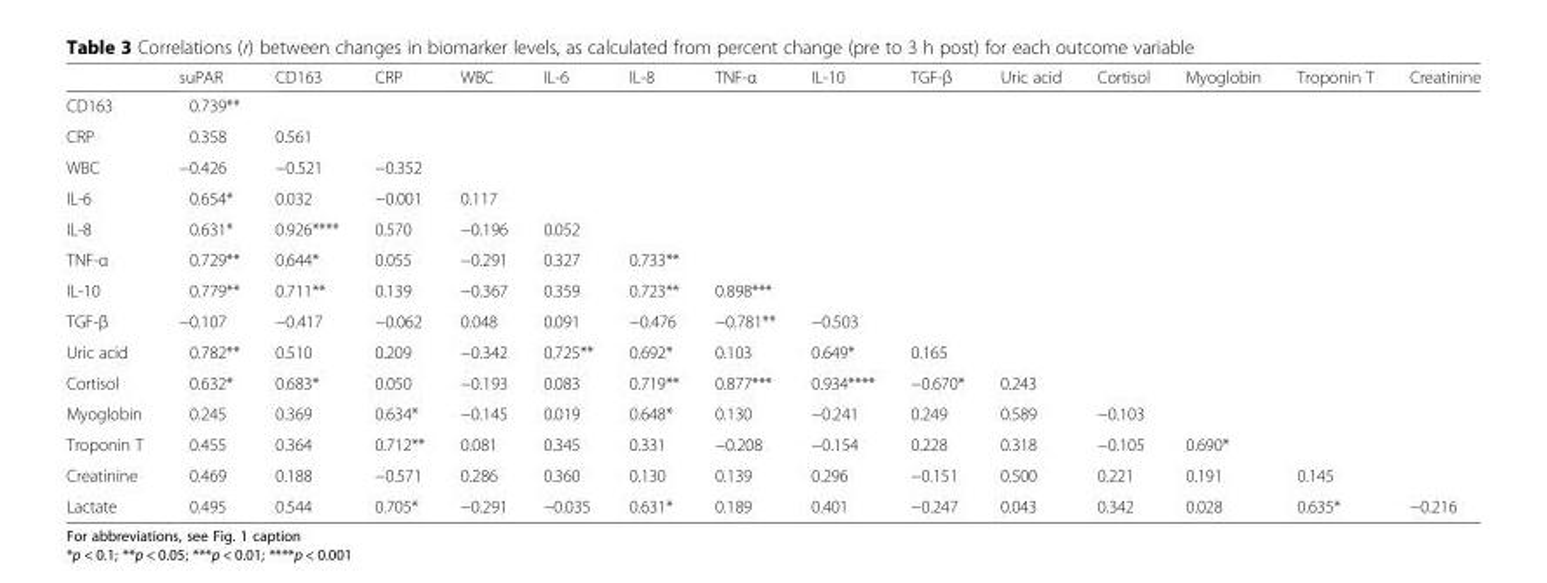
<table><thead><tr><td></td><td>suPAR</td><td>CD163</td><td>CRP</td><td>WBC</td><td>IL-6</td><td>IL-8</td><td>TNF-α</td><td>IL-10</td><td>TGF-β</td><td>Uric acid</td><td>Cortisol</td><td>Myoglobin</td><td>Troponin T</td><td>Creatinine</td></tr></thead><tbody><tr><td>CD163</td><td>0.739**</td><td></td><td></td><td></td><td></td><td></td><td></td><td></td><td></td><td></td><td></td><td></td><td></td><td></td></tr><tr><td>CRP</td><td>0.358</td><td>0.561</td><td></td><td></td><td></td><td></td><td></td><td></td><td></td><td></td><td></td><td></td><td></td><td></td></tr><tr><td>WBC</td><td>−0.426</td><td>−0.521</td><td>−0.352</td><td></td><td></td><td></td><td></td><td></td><td></td><td></td><td></td><td></td><td></td><td></td></tr><tr><td>IL-6</td><td>0.654*</td><td>0.032</td><td>−0.001</td><td>0.117</td><td></td><td></td><td></td><td></td><td></td><td></td><td></td><td></td><td></td><td></td></tr><tr><td>IL-8</td><td>0.631*</td><td>0.926****</td><td>0.570</td><td>−0.196</td><td>0.052</td><td></td><td></td><td></td><td></td><td></td><td></td><td></td><td></td><td></td></tr><tr><td>TNF-α</td><td>0.729**</td><td>0.644*</td><td>0.055</td><td>−0.291</td><td>0.327</td><td>0.733**</td><td></td><td></td><td></td><td></td><td></td><td></td><td></td><td></td></tr><tr><td>IL-10</td><td>0.779**</td><td>0.711**</td><td>0.139</td><td>−0.367</td><td>0.359</td><td>0.723**</td><td>0.898***</td><td></td><td></td><td></td><td></td><td></td><td></td><td></td></tr><tr><td>TGF-β</td><td>−0.107</td><td>−0.417</td><td>−0.062</td><td>0.048</td><td>0.091</td><td>−0.476</td><td>−0.781**</td><td>−0.503</td><td></td><td></td><td></td><td></td><td></td><td></td></tr><tr><td>Uric acid</td><td>0.782**</td><td>0.510</td><td>0.209</td><td>−0.342</td><td>0.725**</td><td>0.692*</td><td>0.103</td><td>0.649*</td><td>0.165</td><td></td><td></td><td></td><td></td><td></td></tr><tr><td>Cortisol</td><td>0.632*</td><td>0.683*</td><td>0.050</td><td>−0.193</td><td>0.083</td><td>0.719**</td><td>0.877***</td><td>0.934****</td><td>−0.670*</td><td>0.243</td><td></td><td></td><td></td><td></td></tr><tr><td>Myoglobin</td><td>0.245</td><td>0.369</td><td>0.634*</td><td>−0.145</td><td>0.019</td><td>0.648*</td><td>0.130</td><td>−0.241</td><td>0.249</td><td>0.589</td><td>−0.103</td><td></td><td></td><td></td></tr><tr><td>Troponin T</td><td>0.455</td><td>0.364</td><td>0.712**</td><td>0.081</td><td>0.345</td><td>0.331</td><td>−0.208</td><td>−0.154</td><td>0.228</td><td>0.318</td><td>−0.105</td><td>0.690*</td><td></td><td></td></tr><tr><td>Creatinine</td><td>0.469</td><td>0.188</td><td>−0.571</td><td>0.286</td><td>0.360</td><td>0.130</td><td>0.139</td><td>0.296</td><td>−0.151</td><td>0.500</td><td>0.221</td><td>0.191</td><td>0.145</td><td></td></tr><tr><td>Lactate</td><td>0.495</td><td>0.544</td><td>0.705*</td><td>−0.291</td><td>−0.035</td><td>0.631*</td><td>0.189</td><td>0.401</td><td>−0.247</td><td>0.043</td><td>0.342</td><td>0.028</td><td>0.635*</td><td>−0.216</td></tr></tbody></table>